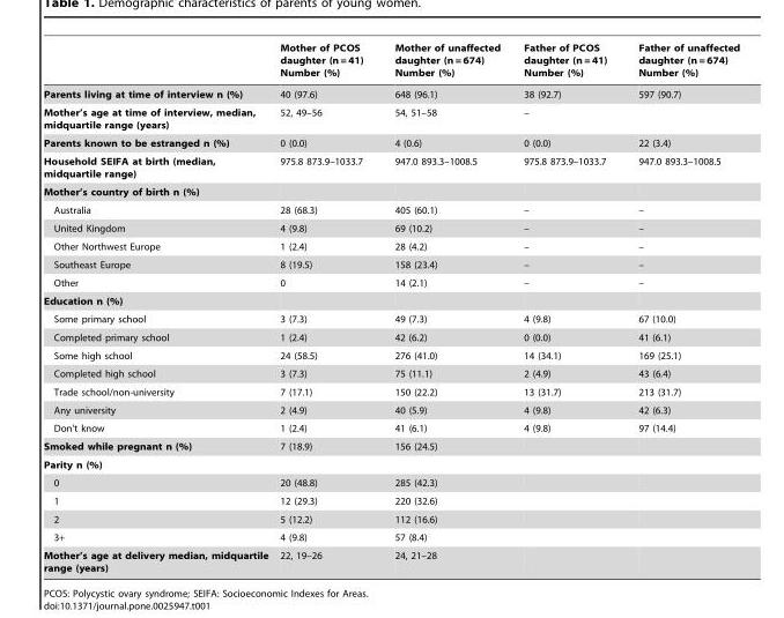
<table><thead><tr><td></td><td>Mother of PCOS daughter (n = 41) Number (%)</td><td>Mother of unaffected daughter (n = 674) Number (%)</td><td>Father of PCOS daughter (n = 41) Number (%)</td><td>Father of unaffected daughter (n = 674) Number (%)</td></tr></thead><tbody><tr><td>Parents living at time of interview n (%)</td><td>40 (97.6)</td><td>648 (96.1)</td><td>38 (92.7)</td><td>597 (90.7)</td></tr><tr><td>Mother’s age at time of interview, median, midquartile range (years)</td><td>52, 49–56</td><td>54, 51–58</td><td>–</td><td></td></tr><tr><td>Parents known to be estranged n (%)</td><td>0 (0.0)</td><td>4 (0.6)</td><td>0 (0.0)</td><td>22 (3.4)</td></tr><tr><td>Household SEIFA at birth (median, midquartile range)</td><td>975.8 873.9–1033.7</td><td>947.0 893.3–1008.5</td><td>975.8 873.9–1033.7</td><td>947.0 893.3–1008.5</td></tr><tr><td colspan="5">Mother’s country of birth n (%)</td></tr><tr><td>Australia</td><td>28 (68.3)</td><td>405 (60.1)</td><td>–</td><td>–</td></tr><tr><td>United Kingdom</td><td>4 (9.8)</td><td>69 (10.2)</td><td>–</td><td>–</td></tr><tr><td>Other Northwest Europe</td><td>1 (2.4)</td><td>28 (4.2)</td><td>–</td><td>–</td></tr><tr><td>Southeast Europe</td><td>8 (19.5)</td><td>158 (23.4)</td><td>–</td><td>–</td></tr><tr><td>Other</td><td>0</td><td>14 (2.1)</td><td>–</td><td>–</td></tr><tr><td colspan="5">Education n (%)</td></tr><tr><td>Some primary school</td><td>3 (7.3)</td><td>49 (7.3)</td><td>4 (9.8)</td><td>67 (10.0)</td></tr><tr><td>Completed primary school</td><td>1 (2.4)</td><td>42 (6.2)</td><td>0 (0.0)</td><td>41 (6.1)</td></tr><tr><td>Some high school</td><td>24 (58.5)</td><td>276 (41.0)</td><td>14 (34.1)</td><td>169 (25.1)</td></tr><tr><td>Completed high school</td><td>3 (7.3)</td><td>75 (11.1)</td><td>2 (4.9)</td><td>43 (6.4)</td></tr><tr><td>Trade school/non-university</td><td>7 (17.1)</td><td>150 (22.2)</td><td>13 (31.7)</td><td>213 (31.7)</td></tr><tr><td>Any university</td><td>2 (4.9)</td><td>40 (5.9)</td><td>4 (9.8)</td><td>42 (6.3)</td></tr><tr><td>Don’t know</td><td>1 (2.4)</td><td>41 (6.1)</td><td>4 (9.8)</td><td>97 (14.4)</td></tr><tr><td>Smoked while pregnant n (%)</td><td>7 (18.9)</td><td>156 (24.5)</td><td></td><td></td></tr><tr><td colspan="5">Parity n (%)</td></tr><tr><td>0</td><td>20 (48.8)</td><td>285 (42.3)</td><td></td><td></td></tr><tr><td>1</td><td>12 (29.3)</td><td>220 (32.6)</td><td></td><td></td></tr><tr><td>2</td><td>5 (12.2)</td><td>112 (16.6)</td><td></td><td></td></tr><tr><td>3+</td><td>4 (9.8)</td><td>57 (8.4)</td><td></td><td></td></tr><tr><td>Mother’s age at delivery median, midquartile range (years)</td><td>22, 19–26</td><td>24, 21–28</td><td></td><td></td></tr></tbody></table>